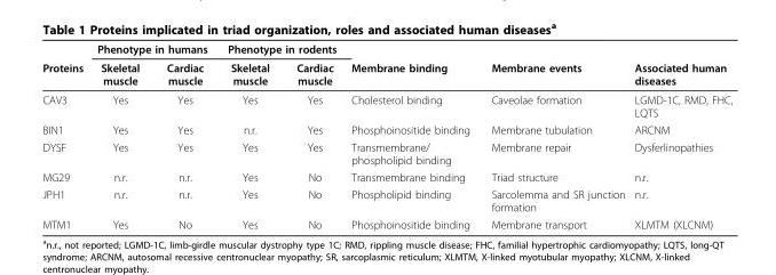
<table><thead><tr><td rowspan="2">Proteins</td><td colspan="2">Phenotype in humans</td><td colspan="2">Phenotype in rodents</td><td rowspan="2">Membrane binding</td><td rowspan="2">Membrane events</td><td rowspan="2">Associated human diseases</td></tr><tr><td>Skeletal muscle</td><td>Cardiac muscle</td><td>Skeletal muscle</td><td>Cardiac muscle</td></tr></thead><tbody><tr><td>CAV3</td><td>Yes</td><td>Yes</td><td>Yes</td><td>Yes</td><td>Cholesterol binding</td><td>Caveolae formation</td><td>LGMD-1C, RMD, FHC, LQTS</td></tr><tr><td>BIN1</td><td>Yes</td><td>Yes</td><td>n.r.</td><td>Yes</td><td>Phosphoinositide binding</td><td>Membrane tubulation</td><td>ARCNM</td></tr><tr><td>DYSF</td><td>Yes</td><td>Yes</td><td>Yes</td><td>Yes</td><td>Transmembrane/ phospholipid binding</td><td>Membrane repair</td><td>Dysferlinopathies</td></tr><tr><td>MG29</td><td>n.r.</td><td>n.r.</td><td>Yes</td><td>No</td><td>Transmembrane binding</td><td>Triad structure</td><td>n.r.</td></tr><tr><td>JPH1</td><td>n.r.</td><td>n.r.</td><td>Yes</td><td>No</td><td>Phospholipid binding</td><td>Sarcolemma and SR junction formation</td><td>n.r.</td></tr><tr><td>MTM1</td><td>Yes</td><td>No</td><td>Yes</td><td>No</td><td>Phosphoinositide binding</td><td>Membrane transport</td><td>XLMTM (XLCNM)</td></tr></tbody></table>